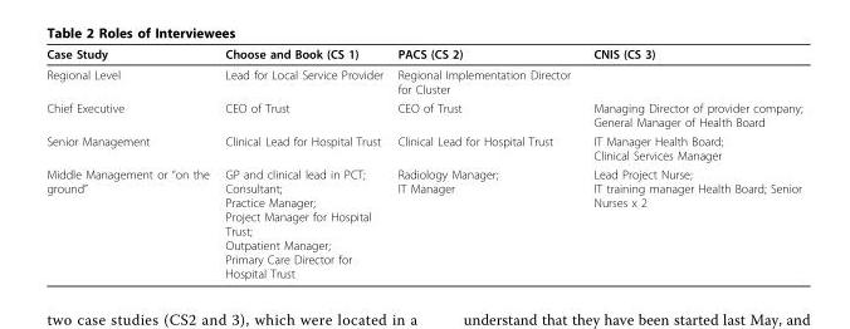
<table><thead><tr><td>Case Study</td><td>Choose and Book (CS 1)</td><td>PACS (CS 2)</td><td>CNIS (CS 3)</td></tr></thead><tbody><tr><td>Regional Level</td><td>Lead for Local Service Provider</td><td>Regional Implementation Director for Cluster</td><td></td></tr><tr><td>Chief Executive</td><td>CEO of Trust</td><td>CEO of Trust</td><td>Managing Director of provider company; General Manager of Health Board</td></tr><tr><td>Senior Management</td><td>Clinical Lead for Hospital Trust</td><td>Clinical Lead for Hospital Trust</td><td>IT Manager Health Board; Clinical Services Manager</td></tr><tr><td>Middle Management or “on the ground”</td><td>GP and clinical lead in PCT; Consultant; Practice Manager; Project Manager for Hospital Trust; Outpatient Manager; Primary Care Director for Hospital Trust</td><td>Radiology Manager; IT Manager</td><td>Lead Project Nurse; IT training manager Health Board; Senior Nurses x 2</td></tr></tbody></table>